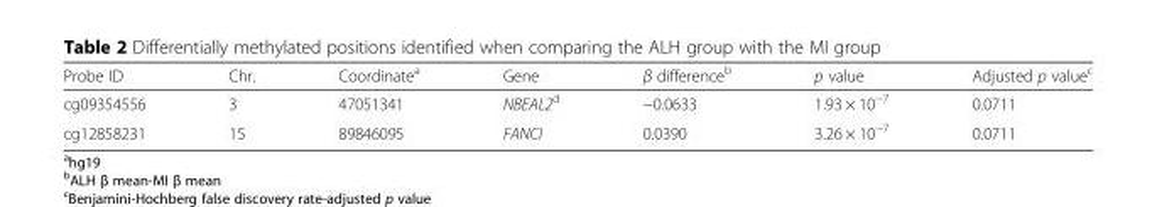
<table><thead><tr><td>Probe ID</td><td>Chr.</td><td>Coordinate<sup>a</sup></td><td>Gene</td><td>β difference<sup>b</sup></td><td>p value</td><td>Adjusted p value<sup>c</sup></td></tr></thead><tbody><tr><td>cg09354556</td><td>3</td><td>47051341</td><td>NBEAL2<sup>d</sup></td><td>−0.0633</td><td>1.93 × 10<sup>−7</sup></td><td>0.0711</td></tr><tr><td>cg12858231</td><td>15</td><td>89846095</td><td>FANCI</td><td>0.0390</td><td>3.26 × 10<sup>−7</sup></td><td>0.0711</td></tr></tbody></table>